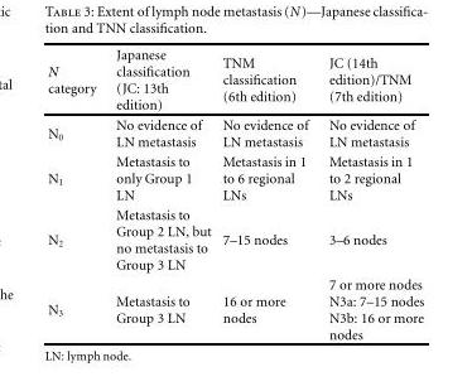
<table><thead><tr><td>N category</td><td>Japanese classification (JC: 13th edition)</td><td>TNM classification (6th edition)</td><td>JC (14th edition)/TNM (7th edition)</td></tr></thead><tbody><tr><td>N<sub>0</sub></td><td>No evidence of LN metastasis</td><td>No evidence of LN metastasis</td><td>No evidence of LN metastasis</td></tr><tr><td>N<sub>1</sub></td><td>Metastasis to only Group 1 LN</td><td>Metastasis in 1 to 6 regional LNs</td><td>Metastasis in 1 to 2 regional LNs</td></tr><tr><td>N<sub>2</sub></td><td>Metastasis to Group 2 LN, but no metastasis to Group 3 LN</td><td>7–15 nodes</td><td>3–6 nodes</td></tr><tr><td>N<sub>3</sub></td><td>Metastasis to Group 3 LN</td><td>16 or more nodes</td><td>7 or more nodes N3a: 7–15 nodes N3b: 16 or more nodes</td></tr></tbody></table>